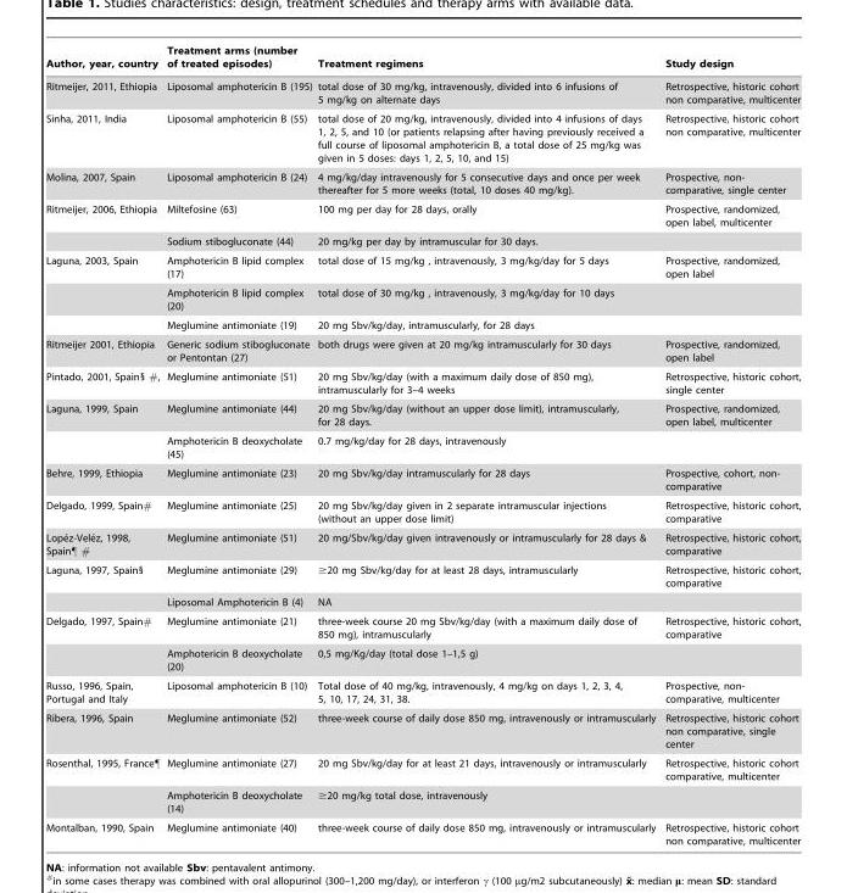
<table><thead><tr><td>Author, year, country</td><td>Treatment arms (number of treated episodes)</td><td>Treatment regimens</td><td>Study design</td></tr></thead><tbody><tr><td>Ritmeijer, 2011, Ethiopia</td><td>Liposomal amphotericin B (195)</td><td>total dose of 30 mg/kg, intravenously, divided into 6 infusions of 5 mg/kg on alternate days</td><td>Retrospective, historic cohort non comparative, multicenter</td></tr><tr><td>Sinha, 2011, India</td><td>Liposomal amphotericin B (55)</td><td>total dose of 20 mg/kg, intravenously, divided into 4 infusions of days 1, 2, 5, and 10 (or patients relapsing after having previously received a full course of liposomal amphotericin B, a total dose of 25 mg/kg was given in 5 doses: days 1, 2, 5, 10, and 15)</td><td>Retrospective, historic cohort non comparative, multicenter</td></tr><tr><td>Molina, 2007, Spain</td><td>Liposomal amphotericin B (24)</td><td>4 mg/kg/day intravenously for 5 consecutive days and once per week thereafter for 5 more weeks (total, 10 doses 40 mg/kg).</td><td>Prospective, non- comparative, single center</td></tr><tr><td rowspan="2">Ritmeijer, 2006, Ethiopia</td><td>Miltefosine (63)</td><td>100 mg per day for 28 days, orally</td><td>Prospective, randomized, open label, multicenter</td></tr><tr><td>Sodium stibogluconate (44)</td><td>20 mg/kg per day by intramuscular for 30 days.</td><td></td></tr><tr><td rowspan="3">Laguna, 2003, Spain</td><td>Amphotericin B lipid complex (17)</td><td>total dose of 15 mg/kg , intravenously, 3 mg/kg/day for 5 days</td><td>Prospective, randomized, open label</td></tr><tr><td>Amphotericin B lipid complex (20)</td><td>total dose of 30 mg/kg , intravenously, 3 mg/kg/day for 10 days</td><td></td></tr><tr><td>Meglumine antimoniate (19)</td><td>20 mg Sbv/kg/day, intramuscularly, for 28 days</td><td></td></tr><tr><td>Ritmeijer 2001, Ethiopia</td><td>Generic sodium stibogluconate or Pentontan (27)</td><td>both drugs were given at 20 mg/kg intramuscularly for 30 days</td><td>Prospective, randomized, open label</td></tr><tr><td>Pintado, 2001, Spain§ #,</td><td>Meglumine antimoniate (51)</td><td>20 mg Sbv/kg/day (with a maximum daily dose of 850 mg), intramuscularly for 3–4 weeks</td><td>Retrospective, historic cohort, single center</td></tr><tr><td rowspan="2">Laguna, 1999, Spain</td><td>Meglumine antimoniate (44)</td><td>20 mg Sbv/kg/day (without an upper dose limit), intramuscularly, for 28 days.</td><td>Prospective, randomized, open label, multicenter</td></tr><tr><td>Amphotericin B deoxycholate (45)</td><td>0.7 mg/kg/day for 28 days, intravenously</td><td></td></tr><tr><td>Behre, 1999, Ethiopia</td><td>Meglumine antimoniate (23)</td><td>20 mg Sbv/kg/day intramuscularly for 28 days</td><td>Prospective, cohort, non- comparative</td></tr><tr><td>Delgado, 1999, Spain#</td><td>Meglumine antimoniate (25)</td><td>20 mg Sbv/kg/day given in 2 separate intramuscular injections (without an upper dose limit)</td><td>Retrospective, historic cohort, comparative</td></tr><tr><td>Lope´z-Vele´z, 1998, Spain&quot; #</td><td>Meglumine antimoniate (51)</td><td>20 mg/Sbv/kg/day given intravenously or intramuscularly for 28 days &amp;</td><td>Retrospective, historic cohort, comparative</td></tr><tr><td rowspan="2">Laguna, 1997, Spain§</td><td>Meglumine antimoniate (29)</td><td>≥20 mg Sbv/kg/day for at least 28 days, intramuscularly</td><td>Retrospective, historic cohort, comparative</td></tr><tr><td>Liposomal Amphotericin B (4)</td><td>NA</td><td></td></tr><tr><td rowspan="2">Delgado, 1997, Spain#</td><td>Meglumine antimoniate (21)</td><td>three-week course 20 mg Sbv/kg/day (with a maximum daily dose of 850 mg), intramuscularly</td><td>Retrospective, historic cohort, comparative</td></tr><tr><td>Amphotericin B deoxycholate (20)</td><td>0,5 mg/Kg/day (total dose 1–1,5 g)</td><td></td></tr><tr><td>Russo, 1996, Spain, Portugal and Italy</td><td>Liposomal amphotericin B (10)</td><td>Total dose of 40 mg/kg, intravenously, 4 mg/kg on days 1, 2, 3, 4, 5, 10, 17, 24, 31, 38.</td><td>Prospective, non- comparative, multicenter</td></tr><tr><td>Ribera, 1996, Spain</td><td>Meglumine antimoniate (52)</td><td>three-week course of daily dose 850 mg, intravenously or intramuscularly</td><td>Retrospective, historic cohort non comparative, single center</td></tr><tr><td rowspan="2">Rosenthal, 1995, France¶</td><td>Meglumine antimoniate (27)</td><td>20 mg Sbv/kg/day for at least 21 days, intravenously or intramuscularly</td><td>Retrospective, historic cohort comparative, multicenter</td></tr><tr><td>Amphotericin B deoxycholate (14)</td><td>≥20 mg/kg total dose, intravenously</td><td></td></tr><tr><td>Montalban, 1990, Spain</td><td>Meglumine antimoniate (40)</td><td>three-week course of daily dose 850 mg, intravenously or intramuscularly</td><td>Retrospective, historic cohort non comparative, multicenter</td></tr></tbody></table>